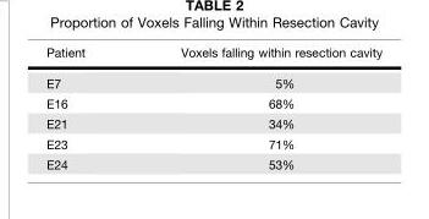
<table><thead><tr><td>Patient</td><td>Voxels falling within resection cavity</td></tr></thead><tbody><tr><td>E7</td><td>5%</td></tr><tr><td>E16</td><td>68%</td></tr><tr><td>E21</td><td>34%</td></tr><tr><td>E23</td><td>71%</td></tr><tr><td>E24</td><td>53%</td></tr></tbody></table>